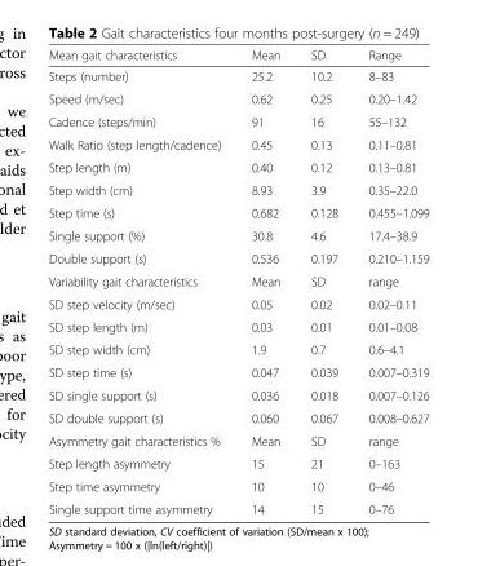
<table><thead><tr><td>Mean gait characteristics</td><td>Mean</td><td>SD</td><td>Range</td></tr></thead><tbody><tr><td>Steps (number)</td><td>25.2</td><td>10.2</td><td>8–83</td></tr><tr><td>Speed (m/sec)</td><td>0.62</td><td>0.25</td><td>0.20–1.42</td></tr><tr><td>Cadence (steps/min)</td><td>91</td><td>16</td><td>55–132</td></tr><tr><td>Walk Ratio (step length/cadence)</td><td>0.45</td><td>0.13</td><td>0.11–0.81</td></tr><tr><td>Step length (m)</td><td>0.40</td><td>0.12</td><td>0.13–0.81</td></tr><tr><td>Step width (cm)</td><td>8.93</td><td>3.9</td><td>0.35–22.0</td></tr><tr><td>Step time (s)</td><td>0.682</td><td>0.128</td><td>0.455–1.099</td></tr><tr><td>Single support (%)</td><td>30.8</td><td>4.6</td><td>17.4–38.9</td></tr><tr><td>Double support (s)</td><td>0.536</td><td>0.197</td><td>0.210–1.159</td></tr><tr><td>Variability gait characteristics</td><td>Mean</td><td>SD</td><td>range</td></tr><tr><td>SD step velocity (m/sec)</td><td>0.05</td><td>0.02</td><td>0.02–0.11</td></tr><tr><td>SD step length (m)</td><td>0.03</td><td>0.01</td><td>0.01–0.08</td></tr><tr><td>SD step width (cm)</td><td>1.9</td><td>0.7</td><td>0.6–4.1</td></tr><tr><td>SD step time (s)</td><td>0.047</td><td>0.039</td><td>0.007–0.319</td></tr><tr><td>SD single support (s)</td><td>0.036</td><td>0.018</td><td>0.007–0.126</td></tr><tr><td>SD double support (s)</td><td>0.060</td><td>0.067</td><td>0.008–0.627</td></tr><tr><td>Asymmetry gait characteristics %</td><td>Mean</td><td>SD</td><td>range</td></tr><tr><td>Step length asymmetry</td><td>15</td><td>21</td><td>0–163</td></tr><tr><td>Step time asymmetry</td><td>10</td><td>10</td><td>0–46</td></tr><tr><td>Single support time asymmetry</td><td>14</td><td>15</td><td>0–76</td></tr></tbody></table>